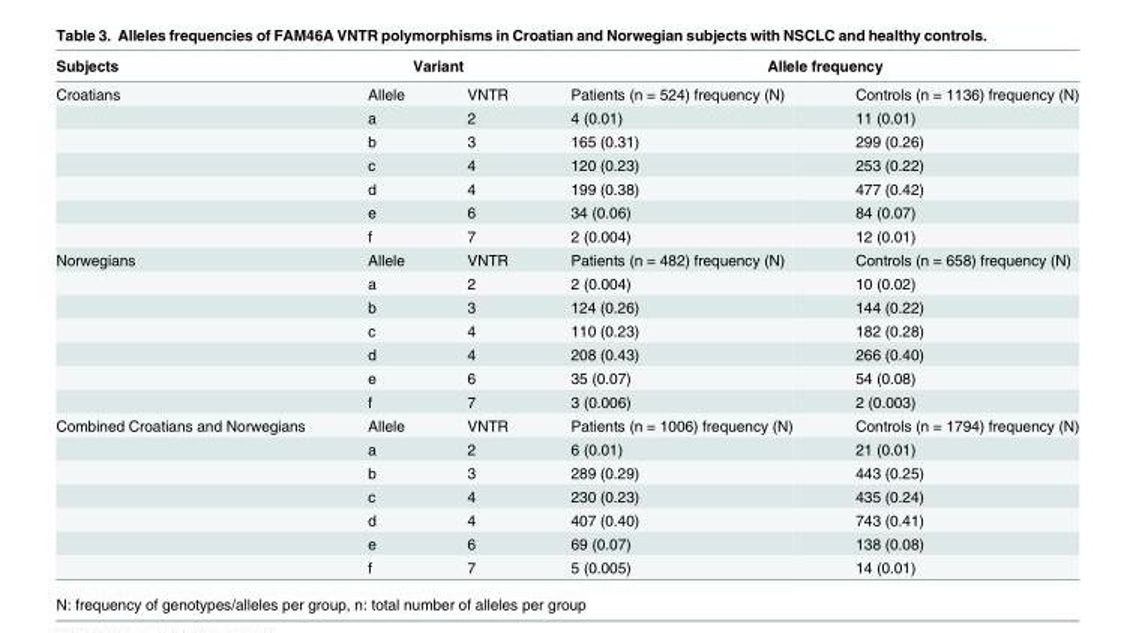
<table><thead><tr><td rowspan="2">Subjects Croatians</td><td colspan="2">Variant</td><td colspan="2">Allele frequency</td></tr><tr><td>Allele</td><td>VNTR</td><td>Patients (n = 524) frequency (N)</td><td>Controls (n = 1136) frequency (N)</td></tr></thead><tbody><tr><td></td><td>a</td><td>2</td><td>4 (0.01)</td><td>11 (0.01)</td></tr><tr><td></td><td>b</td><td>3</td><td>165 (0.31)</td><td>299 (0.26)</td></tr><tr><td></td><td>c</td><td>4</td><td>120 (0.23)</td><td>253 (0.22)</td></tr><tr><td></td><td>d</td><td>4</td><td>199 (0.38)</td><td>477 (0.42)</td></tr><tr><td></td><td>e</td><td>6</td><td>34 (0.06)</td><td>84 (0.07)</td></tr><tr><td></td><td>f</td><td>7</td><td>2 (0.004)</td><td>12 (0.01)</td></tr><tr><td rowspan="7">Norwegians</td><td>Allele</td><td>VNTR</td><td>Patients (n = 482) frequency (N)</td><td>Controls (n = 658) frequency (N)</td></tr><tr><td>a</td><td>2</td><td>2 (0.004)</td><td>10 (0.02)</td></tr><tr><td>b</td><td>3</td><td>124 (0.26)</td><td>144 (0.22)</td></tr><tr><td>c</td><td>4</td><td>110 (0.23)</td><td>182 (0.28)</td></tr><tr><td>d</td><td>4</td><td>208 (0.43)</td><td>266 (0.40)</td></tr><tr><td>e</td><td>6</td><td>35 (0.07)</td><td>54 (0.08)</td></tr><tr><td>f</td><td>7</td><td>3 (0.006)</td><td>2 (0.003)</td></tr><tr><td rowspan="7">Combined Croatians and Norwegians</td><td>Allele</td><td>VNTR</td><td>Patients (n = 1006) frequency (N)</td><td>Controls (n = 1794) frequency (N)</td></tr><tr><td>a</td><td>2</td><td>6 (0.01)</td><td>21 (0.01)</td></tr><tr><td>b</td><td>3</td><td>289 (0.29)</td><td>443 (0.25)</td></tr><tr><td>c</td><td>4</td><td>230 (0.23)</td><td>435 (0.24)</td></tr><tr><td>d</td><td>4</td><td>407 (0.40)</td><td>743 (0.41)</td></tr><tr><td>e</td><td>6</td><td>69 (0.07)</td><td>138 (0.08)</td></tr><tr><td>f</td><td>7</td><td>5 (0.005)</td><td>14 (0.01)</td></tr></tbody></table>